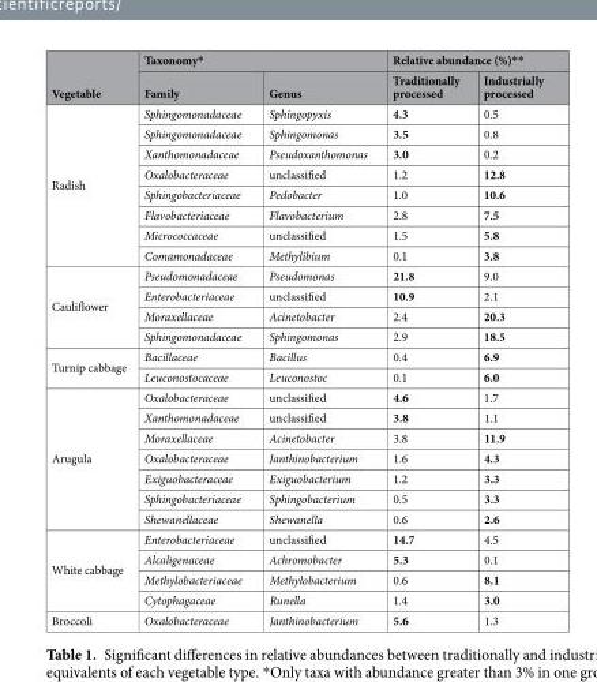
<table><thead><tr><td rowspan="2">Vegetable</td><td colspan="2">Taxonomy*</td><td colspan="2">Relative abundance (%)**</td></tr><tr><td>Family</td><td>Genus</td><td>Traditionally processed</td><td>Industrially processed</td></tr></thead><tbody><tr><td rowspan="8">Radish</td><td>Sphingomonadaceae</td><td>Sphingopyxis</td><td>4.3</td><td>0.5</td></tr><tr><td>Sphingomonadaceae</td><td>Sphingomonas</td><td>3.5</td><td>0.8</td></tr><tr><td>Xanthomonadaceae</td><td>Pseudoxanthomonas</td><td>3.0</td><td>0.2</td></tr><tr><td>Oxalobacteraceae</td><td>unclassified</td><td>1.2</td><td>12.8</td></tr><tr><td>Sphingobacteriaceae</td><td>Pedobacter</td><td>1.0</td><td>10.6</td></tr><tr><td>Flavobacteriaceae</td><td>Flavobacterium</td><td>2.8</td><td>7.5</td></tr><tr><td>Micrococcaceae</td><td>unclassified</td><td>1.5</td><td>5.8</td></tr><tr><td>Comamonadaceae</td><td>Methylibium</td><td>0.1</td><td>3.8</td></tr><tr><td rowspan="4">Cauliflower</td><td>Pseudomonadaceae</td><td>Pseudomonas</td><td>21.8</td><td>9.0</td></tr><tr><td>Enterobacteriaceae</td><td>unclassified</td><td>10.9</td><td>2.1</td></tr><tr><td>Moraxellaceae</td><td>Acinetobacter</td><td>2.4</td><td>20.3</td></tr><tr><td>Sphingomonadaceae</td><td>Sphingomonas</td><td>2.9</td><td>18.5</td></tr><tr><td rowspan="2">Turnip cabbage</td><td>Bacillaceae</td><td>Bacillus</td><td>0.4</td><td>6.9</td></tr><tr><td>Leuconostocaceae</td><td>Leuconostoc</td><td>0.1</td><td>6.0</td></tr><tr><td rowspan="7">Arugula</td><td>Oxalobacteraceae</td><td>unclassified</td><td>4.6</td><td>1.7</td></tr><tr><td>Xanthomonadaceae</td><td>unclassified</td><td>3.8</td><td>1.1</td></tr><tr><td>Moraxellaceae</td><td>Acinetobacter</td><td>3.8</td><td>11.9</td></tr><tr><td>Oxalobacteraceae</td><td>Janthinobacterium</td><td>1.6</td><td>4.3</td></tr><tr><td>Exiguobacteraceae</td><td>Exiguobacterium</td><td>1.2</td><td>3.3</td></tr><tr><td>Sphingobacteriaceae</td><td>Sphingobacterium</td><td>0.5</td><td>3.3</td></tr><tr><td>Shewanellaceae</td><td>Shewanella</td><td>0.6</td><td>2.6</td></tr><tr><td rowspan="4">White cabbage</td><td>Enterobacteriaceae</td><td>unclassified</td><td>14.7</td><td>4.5</td></tr><tr><td>Alcaligenaceae</td><td>Achromobacter</td><td>5.3</td><td>0.1</td></tr><tr><td>Methylobacteriaceae</td><td>Methylobacterium</td><td>0.6</td><td>8.1</td></tr><tr><td>Cytophagaceae</td><td>Runella</td><td>1.4</td><td>3.0</td></tr><tr><td>Broccoli</td><td>Oxalobacteraceae</td><td>Janthinobacterium</td><td>5.6</td><td>1.3</td></tr></tbody></table>